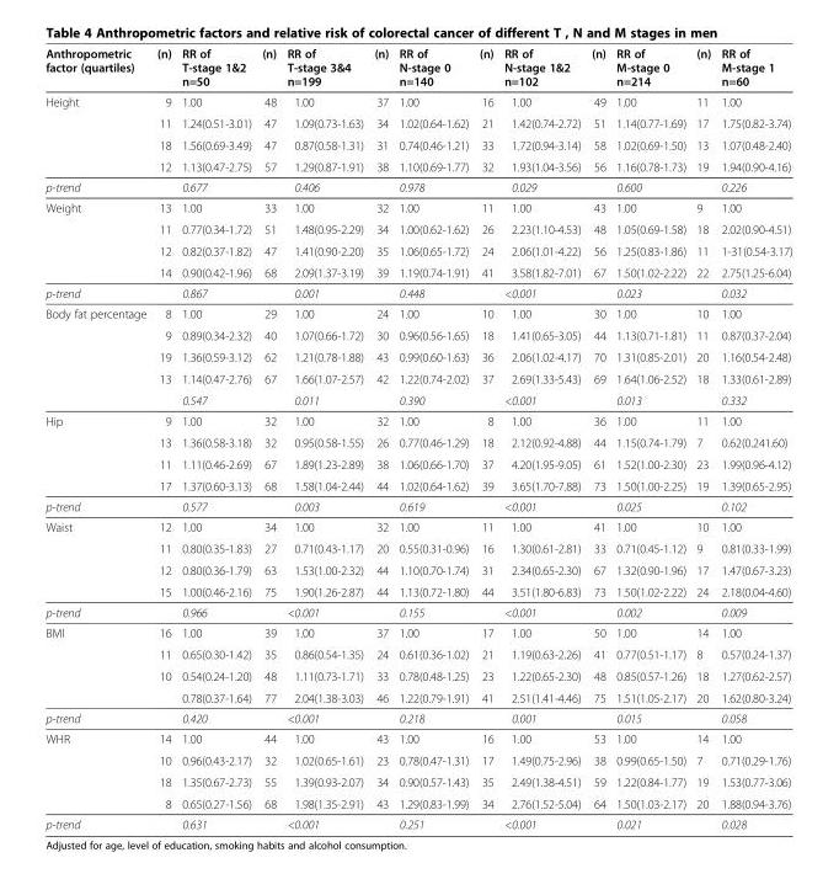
<table><thead><tr><td>Anthropometric factor (quartiles)</td><td>(n)</td><td>RR of T-stage 1&amp;2 n=50</td><td>(n)</td><td>RR of T-stage 3&amp;4 n=199</td><td>(n)</td><td>RR of N-stage 0 n=140</td><td>(n)</td><td>RR of N-stage 1&amp;2 n=102</td><td>(n)</td><td>RR of M-stage 0 n=214</td><td>(n)</td><td>RR of M-stage 1 n=60</td></tr></thead><tbody><tr><td rowspan="4">Height</td><td>9</td><td>1.00</td><td>48</td><td>1.00</td><td>37</td><td>1.00</td><td>16</td><td>1.00</td><td>49</td><td>1.00</td><td>11</td><td>1.00</td></tr><tr><td>11</td><td>1.24(0.51-3.01)</td><td>47</td><td>1.09(0.73-1.63)</td><td>34</td><td>1.02(0.64-1.62)</td><td>21</td><td>1.42(0.74-2.72)</td><td>51</td><td>1.14(0.77-1.69)</td><td>17</td><td>1.75(0.82-3.74)</td></tr><tr><td>18</td><td>1.56(0.69-3.49)</td><td>47</td><td>0.87(0.58-1.31)</td><td>31</td><td>0.74(0.46-1.21)</td><td>33</td><td>1.72(0.94-3.14)</td><td>58</td><td>1.02(0.69-1.50)</td><td>13</td><td>1.07(0.48-2.40)</td></tr><tr><td>12</td><td>1.13(0.47-2.75)</td><td>57</td><td>1.29(0.87-1.91)</td><td>38</td><td>1.10(0.69-1.77)</td><td>32</td><td>1.93(1.04-3.56)</td><td>56</td><td>1.16(0.78-1.73)</td><td>19</td><td>1.94(0.90-4.16)</td></tr><tr><td>p-trend</td><td></td><td>0.677</td><td></td><td>0.406</td><td></td><td>0.978</td><td></td><td>0.029</td><td></td><td>0.600</td><td></td><td>0.226</td></tr><tr><td rowspan="4">Weight</td><td>13</td><td>1.00</td><td>33</td><td>1.00</td><td>32</td><td>1.00</td><td>11</td><td>1.00</td><td>43</td><td>1.00</td><td>9</td><td>1.00</td></tr><tr><td>11</td><td>0.77(0.34-1.72)</td><td>51</td><td>1.48(0.95-2.29)</td><td>34</td><td>1.00(0.62-1.62)</td><td>26</td><td>2.23(1.10-4.53)</td><td>48</td><td>1.05(0.69-1.58)</td><td>18</td><td>2.02(0.90-4.51)</td></tr><tr><td>12</td><td>0.82(0.37-1.82)</td><td>47</td><td>1.41(0.90-2.20)</td><td>35</td><td>1.06(0.65-1.72)</td><td>24</td><td>2.06(1.01-4.22)</td><td>56</td><td>1.25(0.83-1.86)</td><td>11</td><td>1-31(0.54-3.17)</td></tr><tr><td>14</td><td>0.90(0.42-1.96)</td><td>68</td><td>2.09(1.37-3.19)</td><td>39</td><td>1.19(0.74-1.91)</td><td>41</td><td>3.58(1.82-7.01)</td><td>67</td><td>1.50(1.02-2.22)</td><td>22</td><td>2.75(1.25-6.04)</td></tr><tr><td>p-trend</td><td></td><td>0.867</td><td></td><td>0.001</td><td></td><td>0.448</td><td></td><td>&lt;0.001</td><td></td><td>0.023</td><td></td><td>0.032</td></tr><tr><td rowspan="5">Body fat percentage</td><td>8</td><td>1.00</td><td>29</td><td>1.00</td><td>24</td><td>1.00</td><td>10</td><td>1.00</td><td>30</td><td>1.00</td><td>10</td><td>1.00</td></tr><tr><td>9</td><td>0.89(0.34-2.32)</td><td>40</td><td>1.07(0.66-1.72)</td><td>30</td><td>0.96(0.56-1.65)</td><td>18</td><td>1.41(0.65-3.05)</td><td>44</td><td>1.13(0.71-1.81)</td><td>11</td><td>0.87(0.37-2.04)</td></tr><tr><td>19</td><td>1.36(0.59-3.12)</td><td>62</td><td>1.21(0.78-1.88)</td><td>43</td><td>0.99(0.60-1.63)</td><td>36</td><td>2.06(1.02-4.17)</td><td>70</td><td>1.31(0.85-2.01)</td><td>20</td><td>1.16(0.54-2.48)</td></tr><tr><td>13</td><td>1.14(0.47-2.76)</td><td>67</td><td>1.66(1.07-2.57)</td><td>42</td><td>1.22(0.74-2.02)</td><td>37</td><td>2.69(1.33-5.43)</td><td>69</td><td>1.64(1.06-2.52)</td><td>18</td><td>1.33(0.61-2.89)</td></tr><tr><td></td><td>0.547</td><td></td><td>0.011</td><td></td><td>0.390</td><td></td><td>&lt;0.001</td><td></td><td>0.013</td><td></td><td>0.332</td></tr><tr><td rowspan="4">Hip</td><td>9</td><td>1.00</td><td>32</td><td>1.00</td><td>32</td><td>1.00</td><td>8</td><td>1.00</td><td>36</td><td>1.00</td><td>11</td><td>1.00</td></tr><tr><td>13</td><td>1.36(0.58-3.18)</td><td>32</td><td>0.95(0.58-1.55)</td><td>26</td><td>0.77(0.46-1.29)</td><td>18</td><td>2.12(0.92-4.88)</td><td>44</td><td>1.15(0.74-1.79)</td><td>7</td><td>0.62(0.241.60)</td></tr><tr><td>11</td><td>1.11(0.46-2.69)</td><td>67</td><td>1.89(1.23-2.89)</td><td>38</td><td>1.06(0.66-1.70)</td><td>37</td><td>4.20(1.95-9.05)</td><td>61</td><td>1.52(1.00-2.30)</td><td>23</td><td>1.99(0.96-4.12)</td></tr><tr><td>17</td><td>1.37(0.60-3.13)</td><td>68</td><td>1.58(1.04-2.44)</td><td>44</td><td>1.02(0.64-1.62)</td><td>39</td><td>3.65(1.70-7.88)</td><td>73</td><td>1.50(1.00-2.25)</td><td>19</td><td>1.39(0.65-2.95)</td></tr><tr><td>p-trend</td><td></td><td>0.577</td><td></td><td>0.003</td><td></td><td>0.619</td><td></td><td>&lt;0.001</td><td></td><td>0.025</td><td></td><td>0.102</td></tr><tr><td rowspan="4">Waist</td><td>12</td><td>1.00</td><td>34</td><td>1.00</td><td>32</td><td>1.00</td><td>11</td><td>1.00</td><td>41</td><td>1.00</td><td>10</td><td>1.00</td></tr><tr><td>11</td><td>0.80(0.35-1.83)</td><td>27</td><td>0.71(0.43-1.17)</td><td>20</td><td>0.55(0.31-0.96)</td><td>16</td><td>1.30(0.61-2.81)</td><td>33</td><td>0.71(0.45-1.12)</td><td>9</td><td>0.81(0.33-1.99)</td></tr><tr><td>12</td><td>0.80(0.36-1.79)</td><td>63</td><td>1.53(1.00-2.32)</td><td>44</td><td>1.10(0.70-1.74)</td><td>31</td><td>2.34(0.65-2.30)</td><td>67</td><td>1.32(0.90-1.96)</td><td>17</td><td>1.47(0.67-3.23)</td></tr><tr><td>15</td><td>1.00(0.46-2.16)</td><td>75</td><td>1.90(1.26-2.87)</td><td>44</td><td>1.13(0.72-1.80)</td><td>44</td><td>3.51(1.80-6.83)</td><td>73</td><td>1.50(1.02-2.22)</td><td>24</td><td>2.18(0.04-4.60)</td></tr><tr><td>p-trend</td><td></td><td>0.966</td><td></td><td>&lt;0.001</td><td></td><td>0.155</td><td></td><td>&lt;0.001</td><td></td><td>0.002</td><td></td><td>0.009</td></tr><tr><td rowspan="4">BMI</td><td>16</td><td>1.00</td><td>39</td><td>1.00</td><td>37</td><td>1.00</td><td>17</td><td>1.00</td><td>50</td><td>1.00</td><td>14</td><td>1.00</td></tr><tr><td>11</td><td>0.65(0.30-1.42)</td><td>35</td><td>0.86(0.54-1.35)</td><td>24</td><td>0.61(0.36-1.02)</td><td>21</td><td>1.19(0.63-2.26)</td><td>41</td><td>0.77(0.51-1.17)</td><td>8</td><td>0.57(0.24-1.37)</td></tr><tr><td>10</td><td>0.54(0.24-1.20)</td><td>48</td><td>1.11(0.73-1.71)</td><td>33</td><td>0.78(0.48-1.25)</td><td>23</td><td>1.22(0.65-2.30)</td><td>48</td><td>0.85(0.57-1.26)</td><td>18</td><td>1.27(0.62-2.57)</td></tr><tr><td></td><td>0.78(0.37-1.64)</td><td>77</td><td>2.04(1.38-3.03)</td><td>46</td><td>1.22(0.79-1.91)</td><td>41</td><td>2.51(1.41-4.46)</td><td>75</td><td>1.51(1.05-2.17)</td><td>20</td><td>1.62(0.80-3.24)</td></tr><tr><td>p-trend</td><td></td><td>0.420</td><td></td><td>&lt;0.001</td><td></td><td>0.218</td><td></td><td>0.001</td><td></td><td>0.015</td><td></td><td>0.058</td></tr><tr><td rowspan="4">WHR</td><td>14</td><td>1.00</td><td>44</td><td>1.00</td><td>43</td><td>1.00</td><td>16</td><td>1.00</td><td>53</td><td>1.00</td><td>14</td><td>1.00</td></tr><tr><td>10</td><td>0.96(0.43-2.17)</td><td>32</td><td>1.02(0.65-1.61)</td><td>23</td><td>0.78(0.47-1.31)</td><td>17</td><td>1.49(0.75-2.96)</td><td>38</td><td>0.99(0.65-1.50)</td><td>7</td><td>0.71(0.29-1.76)</td></tr><tr><td>18</td><td>1.35(0.67-2.73)</td><td>55</td><td>1.39(0.93-2.07)</td><td>34</td><td>0.90(0.57-1.43)</td><td>35</td><td>2.49(1.38-4.51)</td><td>59</td><td>1.22(0.84-1.77)</td><td>19</td><td>1.53(0.77-3.06)</td></tr><tr><td>8</td><td>0.65(0.27-1.56)</td><td>68</td><td>1.98(1.35-2.91)</td><td>43</td><td>1.29(0.83-1.99)</td><td>34</td><td>2.76(1.52-5.04)</td><td>64</td><td>1.50(1.03-2.17)</td><td>20</td><td>1.88(0.94-3.76)</td></tr><tr><td>p-trend</td><td></td><td>0.631</td><td></td><td>&lt;0.001</td><td></td><td>0.251</td><td></td><td>&lt;0.001</td><td></td><td>0.021</td><td></td><td>0.028</td></tr></tbody></table>